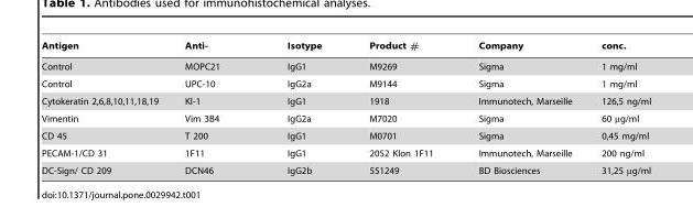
<table><thead><tr><td>Antigen</td><td>Anti-</td><td>Isotype</td><td>Product #</td><td>Company</td><td>conc.</td></tr></thead><tbody><tr><td>Control</td><td>MOPC21</td><td>IgG1</td><td>M9269</td><td>Sigma</td><td>1 mg/ml</td></tr><tr><td>Control</td><td>UPC-10</td><td>IgG2a</td><td>M9144</td><td>Sigma</td><td>1 mg/ml</td></tr><tr><td>Cytokeratin 2,6,8,10,11,18,19</td><td>Kl-1</td><td>IgG1</td><td>1918</td><td>Immunotech, Marseille</td><td>126,5 ng/ml</td></tr><tr><td>Vimentin</td><td>Vim 3B4</td><td>IgG2a</td><td>M7020</td><td>Sigma</td><td>60 µg/ml</td></tr><tr><td>CD 45</td><td>T 200</td><td>IgG1</td><td>M0701</td><td>Sigma</td><td>0,45 mg/ml</td></tr><tr><td>PECAM-1/CD 31</td><td>1F11</td><td>IgG1</td><td>2052 Klon 1F11</td><td>Immunotech, Marseille</td><td>200 ng/ml</td></tr><tr><td>DC-Sign/ CD 209</td><td>DCN46</td><td>IgG2b</td><td>551249</td><td>BD Biosciences</td><td>31,25 µg/ml</td></tr></tbody></table>